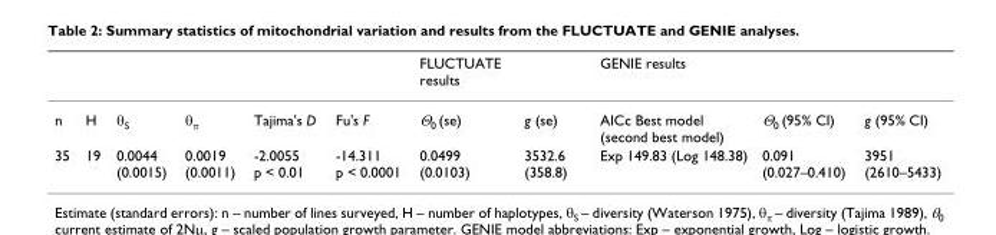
<table><thead><tr><td></td><td></td><td></td><td></td><td></td><td></td><td>FLUCTUATE results</td><td></td><td>GENIE results</td><td></td><td></td></tr></thead><tbody><tr><td>n</td><td>H</td><td>θ<sub>S</sub></td><td>θ<sub>π</sub></td><td>Tajima&#x27;s D</td><td>Fu&#x27;s F</td><td>Θ<sub>0</sub> (se)</td><td>g (se)</td><td>AICc Best model (second best model)</td><td>Θ<sub>0</sub> (95% CI)</td><td>g (95% CI)</td></tr><tr><td>35</td><td>19</td><td>0.0044 (0.0015)</td><td>0.0019 (0.0011)</td><td>-2.0055 p &lt; 0.01</td><td>-14.311 p &lt; 0.0001</td><td>0.0499 (0.0103)</td><td>3532.6 (358.8)</td><td>Exp 149.83 (Log 148.38)</td><td>0.091 (0.027–0.410)</td><td>3951 (2610–5433)</td></tr></tbody></table>